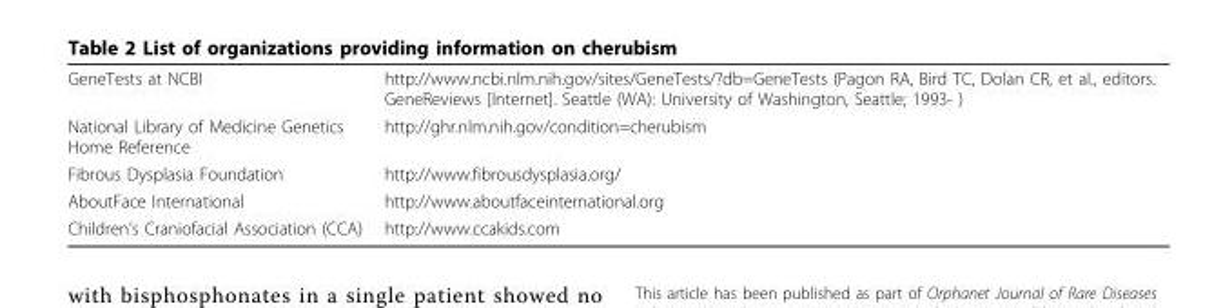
<table><tbody><tr><td>GeneTests at NCBI</td><td>http://www.ncbi.nlm.nih.gov/sites/GeneTests/?db=GeneTests (Pagon RA, Bird TC, Dolan CR, et al., editors. GeneReviews [Internet]. Seattle (WA): University of Washington, Seattle; 1993- )</td></tr><tr><td>National Library of Medicine Genetics Home Reference</td><td>http://ghr.nlm.nih.gov/condition=cherubism</td></tr><tr><td>Fibrous Dysplasia Foundation</td><td>http://www.fibrousdysplasia.org/</td></tr><tr><td>AboutFace International</td><td>http://www.aboutfaceinternational.org</td></tr><tr><td>Children’s Craniofacial Association (CCA)</td><td>http://www.ccakids.com</td></tr></tbody></table>